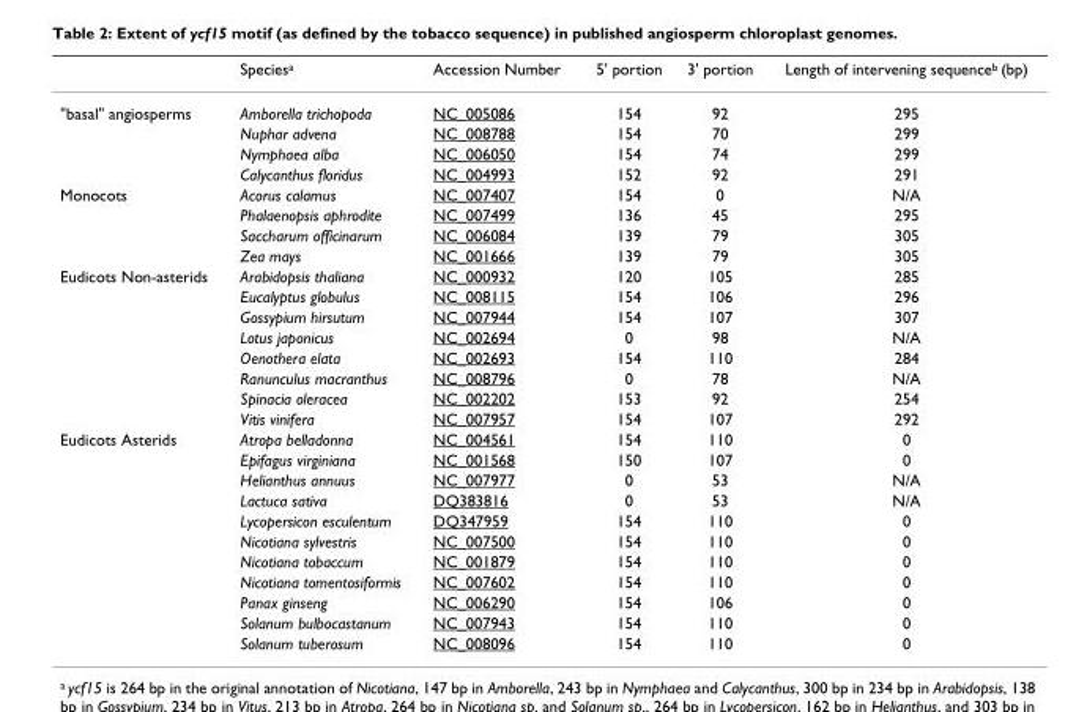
<table><thead><tr><td></td><td>Species<sup>a</sup></td><td>Accession Number</td><td>5&#x27; portion</td><td>3&#x27; portion</td><td>Length of intervening sequence<sup>b</sup> (bp)</td></tr></thead><tbody><tr><td rowspan="4">&quot;basal&quot; angiosperms</td><td>Amborella trichopoda</td><td>NC_005086</td><td>154</td><td>92</td><td>295</td></tr><tr><td>Nuphar advena</td><td>NC_008788</td><td>154</td><td>70</td><td>299</td></tr><tr><td>Nymphaea alba</td><td>NC_006050</td><td>154</td><td>74</td><td>299</td></tr><tr><td>Calycanthus floridus</td><td>NC_004993</td><td>152</td><td>92</td><td>291</td></tr><tr><td rowspan="4">Monocots</td><td>Acorus calamus</td><td>NC_007407</td><td>154</td><td>0</td><td>N/A</td></tr><tr><td>Phalaenopsis aphrodite</td><td>NC_007499</td><td>136</td><td>45</td><td>295</td></tr><tr><td>Saccharum officinarum</td><td>NC_006084</td><td>139</td><td>79</td><td>305</td></tr><tr><td>Zea mays</td><td>NC_001666</td><td>139</td><td>79</td><td>305</td></tr><tr><td rowspan="8">Eudicots Non-asterids</td><td>Arabidopsis thaliana</td><td>NC_000932</td><td>120</td><td>105</td><td>285</td></tr><tr><td>Eucalyptus globulus</td><td>NC_008115</td><td>154</td><td>106</td><td>296</td></tr><tr><td>Gossypium hirsutum</td><td>NC_007944</td><td>154</td><td>107</td><td>307</td></tr><tr><td>Lotus japonicus</td><td>NC_002694</td><td>0</td><td>98</td><td>N/A</td></tr><tr><td>Oenothera elata</td><td>NC_002693</td><td>154</td><td>110</td><td>284</td></tr><tr><td>Ranunculus macranthus</td><td>NC_008796</td><td>0</td><td>78</td><td>N/A</td></tr><tr><td>Spinacia oleracea</td><td>NC_002202</td><td>153</td><td>92</td><td>254</td></tr><tr><td>Vitis vinifera</td><td>NC_007957</td><td>154</td><td>107</td><td>292</td></tr><tr><td rowspan="11">Eudicots Asterids</td><td>Atropa belladonna</td><td>NC_004561</td><td>154</td><td>110</td><td>0</td></tr><tr><td>Epifagus virginiana</td><td>NC_001568</td><td>150</td><td>107</td><td>0</td></tr><tr><td>Helianthus annuus</td><td>NC_007977</td><td>0</td><td>53</td><td>N/A</td></tr><tr><td>Lactuca sativa</td><td>DQ383816</td><td>0</td><td>53</td><td>N/A</td></tr><tr><td>Lycopersicon esculentum</td><td>DQ347959</td><td>154</td><td>110</td><td>0</td></tr><tr><td>Nicotiana sylvestris</td><td>NC_007500</td><td>154</td><td>110</td><td>0</td></tr><tr><td>Nicotiana tobaccum</td><td>NC_001879</td><td>154</td><td>110</td><td>0</td></tr><tr><td>Nicotiana tomentosiformis</td><td>NC_007602</td><td>154</td><td>110</td><td>0</td></tr><tr><td>Panax ginseng</td><td>NC_006290</td><td>154</td><td>106</td><td>0</td></tr><tr><td>Solanum bulbocastanum</td><td>NC_007943</td><td>154</td><td>110</td><td>0</td></tr><tr><td>Solanum tuberosum</td><td>NC_008096</td><td>154</td><td>110</td><td>0</td></tr></tbody></table>